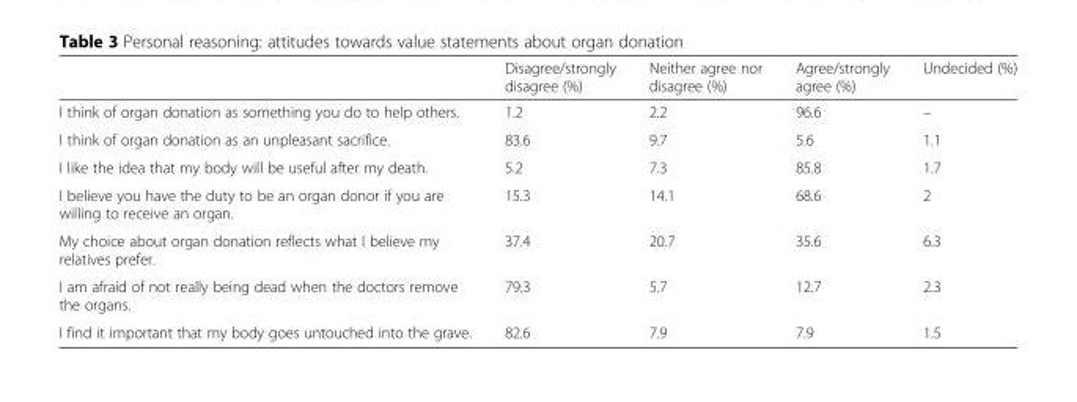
<table><thead><tr><td></td><td>Disagree/strongly disagree (%)</td><td>Neither agree nor disagree (%)</td><td>Agree/strongly agree (%)</td><td>Undecided (%)</td></tr></thead><tbody><tr><td>I think of organ donation as something you do to help others.</td><td>1.2</td><td>2.2</td><td>96.6</td><td>–</td></tr><tr><td>I think of organ donation as an unpleasant sacrifice.</td><td>83.6</td><td>9.7</td><td>5.6</td><td>1.1</td></tr><tr><td>I like the idea that my body will be useful after my death.</td><td>5.2</td><td>7.3</td><td>85.8</td><td>1.7</td></tr><tr><td>I believe you have the duty to be an organ donor if you are willing to receive an organ.</td><td>15.3</td><td>14.1</td><td>68.6</td><td>2</td></tr><tr><td>My choice about organ donation reflects what I believe my relatives prefer.</td><td>37.4</td><td>20.7</td><td>35.6</td><td>6.3</td></tr><tr><td>I am afraid of not really being dead when the doctors remove the organs.</td><td>79.3</td><td>5.7</td><td>12.7</td><td>2.3</td></tr><tr><td>I find it important that my body goes untouched into the grave.</td><td>82.6</td><td>7.9</td><td>7.9</td><td>1.5</td></tr></tbody></table>